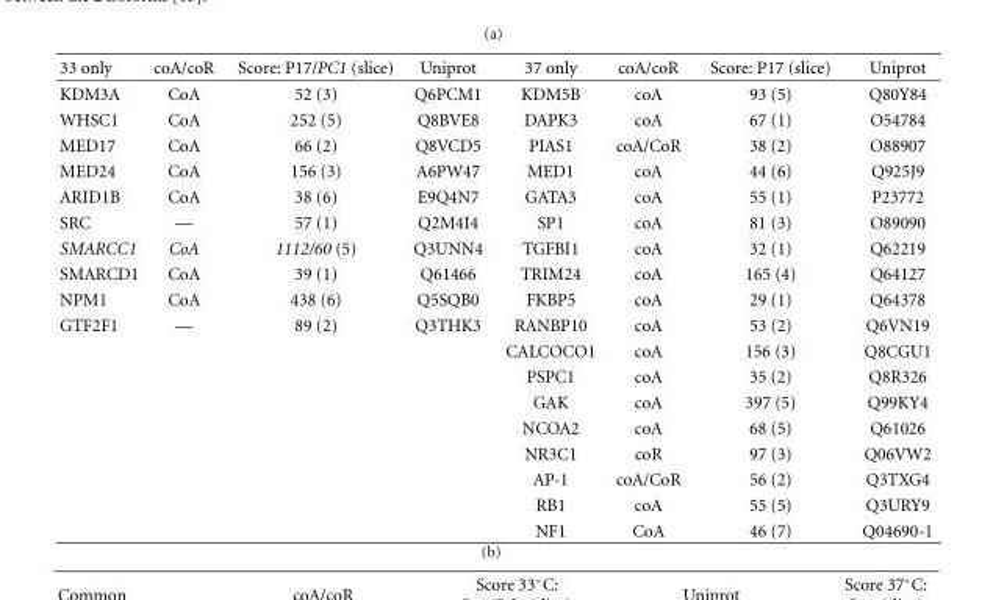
<table><thead><tr><td>33 only</td><td>coA/coR</td><td>Score: P17/PC1 (slice)</td><td>Uniprot</td><td>37 only</td><td>coA/coR</td><td>Score: P17 (slice)</td><td>Uniprot</td></tr></thead><tbody><tr><td>KDM3A</td><td>CoA</td><td>52 (3)</td><td>Q6PCM1</td><td>KDM5B</td><td>coA</td><td>93 (5)</td><td>Q80Y84</td></tr><tr><td>WHSC1</td><td>CoA</td><td>252 (5)</td><td>Q8BVE8</td><td>DAPK3</td><td>coA</td><td>67 (1)</td><td>O54784</td></tr><tr><td>MED17</td><td>CoA</td><td>66 (2)</td><td>Q8VCD5</td><td>PIAS1</td><td>coA/CoR</td><td>38 (2)</td><td>O88907</td></tr><tr><td>MED24</td><td>CoA</td><td>156 (3)</td><td>A6PW47</td><td>MED1</td><td>coA</td><td>44 (6)</td><td>Q925J9</td></tr><tr><td>ARID1B</td><td>CoA</td><td>38 (6)</td><td>E9Q4N7</td><td>GATA3</td><td>coA</td><td>55 (1)</td><td>P23772</td></tr><tr><td>SRC</td><td>—</td><td>57 (1)</td><td>Q2M4I4</td><td>SP1</td><td>coA</td><td>81 (3)</td><td>O89090</td></tr><tr><td>SMARCC1</td><td>CoA</td><td>1112/60 (5)</td><td>Q3UNN4</td><td>TGFBI1</td><td>coA</td><td>32 (1)</td><td>Q62219</td></tr><tr><td>SMARCD1</td><td>CoA</td><td>39 (1)</td><td>Q61466</td><td>TRIM24</td><td>coA</td><td>165 (4)</td><td>Q64127</td></tr><tr><td>NPM1</td><td>CoA</td><td>438 (6)</td><td>Q5SQB0</td><td>FKBP5</td><td>coA</td><td>29 (1)</td><td>Q64378</td></tr><tr><td rowspan="9">GTF2F1</td><td>—</td><td>89 (2)</td><td>Q3THK3</td><td>RANBP10</td><td>coA</td><td>53 (2)</td><td>Q6VN19</td></tr><tr><td></td><td></td><td></td><td>CALCOCO1</td><td>coA</td><td>156 (3)</td><td>Q8CGU1</td></tr><tr><td></td><td></td><td></td><td>PSPC1</td><td>coA</td><td>35 (2)</td><td>Q8R326</td></tr><tr><td></td><td></td><td></td><td>GAK</td><td>coA</td><td>397 (5)</td><td>Q99KY4</td></tr><tr><td></td><td></td><td></td><td>NCOA2</td><td>coA</td><td>68 (5)</td><td>Q61026</td></tr><tr><td></td><td></td><td></td><td>NR3C1</td><td>coR</td><td>97 (3)</td><td>Q06VW2</td></tr><tr><td></td><td></td><td></td><td>AP-1</td><td>coA/CoR</td><td>56 (2)</td><td>Q3TXG4</td></tr><tr><td></td><td></td><td></td><td>RB1</td><td>coA</td><td>55 (5)</td><td>Q3URY9</td></tr><tr><td></td><td></td><td></td><td>NF1</td><td>CoA</td><td>46 (7)</td><td>Q04690-1</td></tr></tbody></table>